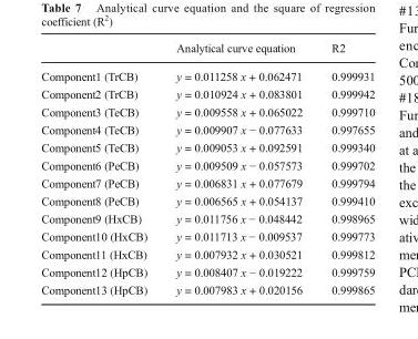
<table><thead><tr><td></td><td>Analytical curve equation</td><td>R2</td></tr></thead><tbody><tr><td>Component1 (TrCB)</td><td>y = 0.011258 x + 0.062471</td><td>0.999931</td></tr><tr><td>Component2 (TrCB)</td><td>y = 0.010924 x + 0.083801</td><td>0.999942</td></tr><tr><td>Component3 (TeCB)</td><td>y = 0.009558 x + 0.065022</td><td>0.999710</td></tr><tr><td>Component4 (TeCB)</td><td>y = 0.009907 x − 0.077633</td><td>0.997655</td></tr><tr><td>Component5 (TeCB)</td><td>y = 0.009053 x + 0.092591</td><td>0.999340</td></tr><tr><td>Component6 (PeCB)</td><td>y = 0.009509 x − 0.057573</td><td>0.999702</td></tr><tr><td>Component7 (PeCB)</td><td>y = 0.006831 x + 0.077679</td><td>0.999794</td></tr><tr><td>Component8 (PeCB)</td><td>y = 0.006565 x + 0.054137</td><td>0.999410</td></tr><tr><td>Component9 (HxCB)</td><td>y = 0.011756 x − 0.048442</td><td>0.998965</td></tr><tr><td>Component10 (HxCB)</td><td>y = 0.011713 x − 0.009537</td><td>0.999773</td></tr><tr><td>Component11 (HxCB)</td><td>y = 0.007932 x + 0.030521</td><td>0.999812</td></tr><tr><td>Component12 (HpCB)</td><td>y = 0.008407 x − 0.019222</td><td>0.999759</td></tr><tr><td>Component13 (HpCB)</td><td>y = 0.007983 x + 0.020156</td><td>0.999865</td></tr></tbody></table>